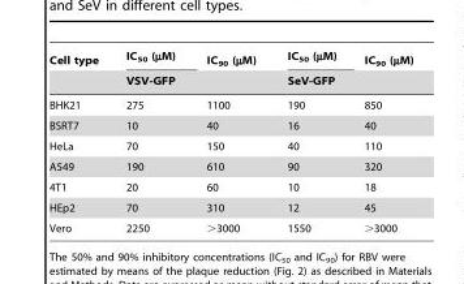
<table><thead><tr><td rowspan="2">Cell type</td><td>IC<sub>50</sub> (µM)</td><td>IC<sub>90</sub> (µM)</td><td>IC<sub>50</sub> (µM)</td><td>IC<sub>90</sub> (µM)</td></tr><tr><td colspan="2">VSV-GFP</td><td colspan="2">SeV-GFP</td></tr></thead><tbody><tr><td>BHK21</td><td>275</td><td>1100</td><td>190</td><td>850</td></tr><tr><td>BSRT7</td><td>10</td><td>40</td><td>16</td><td>40</td></tr><tr><td>HeLa</td><td>70</td><td>150</td><td>40</td><td>110</td></tr><tr><td>A549</td><td>190</td><td>610</td><td>90</td><td>320</td></tr><tr><td>4T1</td><td>20</td><td>60</td><td>10</td><td>18</td></tr><tr><td>HEp2</td><td>70</td><td>310</td><td>12</td><td>45</td></tr><tr><td>Vero</td><td>2250</td><td>&gt;3000</td><td>1550</td><td>&gt;3000</td></tr></tbody></table>